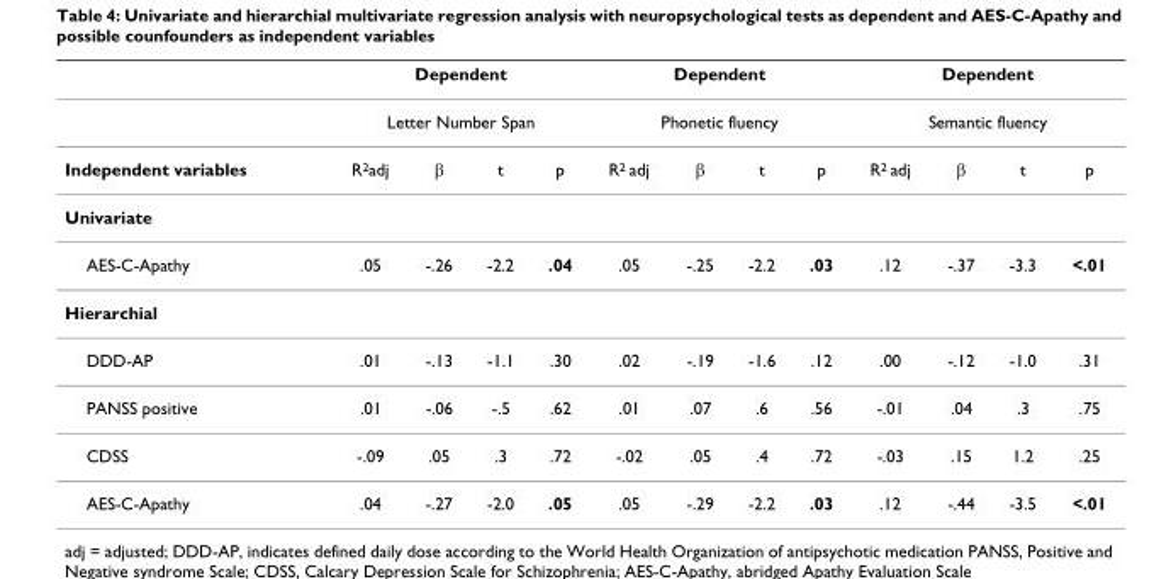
<table><thead><tr><td rowspan="3">Independent variables</td><td rowspan="2" colspan="4">Dependent Letter Number Span</td><td rowspan="2" colspan="4">Dependent Phonetic fluency</td><td rowspan="2" colspan="4">Dependent Semantic fluency</td></tr><tr></tr><tr><td>R<sup>2</sup>adj</td><td>β</td><td>t</td><td>p</td><td>R<sup>2</sup> adj</td><td>β</td><td>t</td><td>p</td><td>R<sup>2</sup> adj</td><td>β</td><td>t</td><td>p</td></tr></thead><tbody><tr><td colspan="13">Univariate</td></tr><tr><td>AES-C-Apathy</td><td>.05</td><td>-.26</td><td>-2.2</td><td>.04</td><td>.05</td><td>-.25</td><td>-2.2</td><td>.03</td><td>.12</td><td>-.37</td><td>-3.3</td><td>&lt;.01</td></tr><tr><td colspan="13">Hierarchial</td></tr><tr><td>DDD-AP</td><td>.01</td><td>-.13</td><td>-1.1</td><td>.30</td><td>.02</td><td>-.19</td><td>-1.6</td><td>.12</td><td>.00</td><td>-.12</td><td>-1.0</td><td>.31</td></tr><tr><td>PANSS positive</td><td>.01</td><td>-.06</td><td>-.5</td><td>.62</td><td>.01</td><td>.07</td><td>.6</td><td>.56</td><td>-.01</td><td>.04</td><td>.3</td><td>.75</td></tr><tr><td>CDSS</td><td>-.09</td><td>.05</td><td>.3</td><td>.72</td><td>-.02</td><td>.05</td><td>.4</td><td>.72</td><td>-.03</td><td>.15</td><td>1.2</td><td>.25</td></tr><tr><td>AES-C-Apathy</td><td>.04</td><td>-.27</td><td>-2.0</td><td>.05</td><td>.05</td><td>-.29</td><td>-2.2</td><td>.03</td><td>.12</td><td>-.44</td><td>-3.5</td><td>&lt;.01</td></tr></tbody></table>